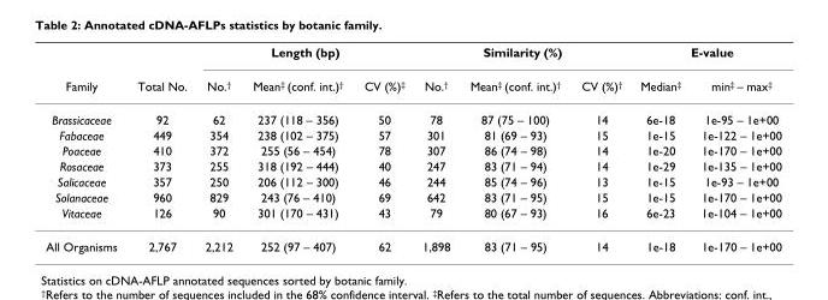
<table><thead><tr><td rowspan="2">Family</td><td rowspan="2">Total No.</td><td colspan="3">Length (bp)</td><td colspan="3">Similarity (%)</td><td colspan="2">E-value</td></tr><tr><td>No.<sup>†</sup></td><td>Mean<sup>‡</sup> (conf. int.)<sup>†</sup></td><td>CV (%)<sup>‡</sup></td><td>No.<sup>†</sup></td><td>Mean<sup>‡</sup> (conf. int.)<sup>†</sup></td><td>CV (%)<sup>†</sup></td><td>Median<sup>‡</sup></td><td>min<sup>‡</sup> – max<sup>‡</sup></td></tr></thead><tbody><tr><td>Brassicaceae</td><td>92</td><td>62</td><td>237 (118 – 356)</td><td>50</td><td>78</td><td>87 (75 – 100)</td><td>14</td><td>6e-18</td><td>1e-95 – 1e+00</td></tr><tr><td>Fabaceae</td><td>449</td><td>354</td><td>238 (102 – 375)</td><td>57</td><td>301</td><td>81 (69 – 93)</td><td>15</td><td>1e-15</td><td>1e-122 – 1e+00</td></tr><tr><td>Poaceae</td><td>410</td><td>372</td><td>255 (56 – 454)</td><td>78</td><td>307</td><td>86 (74 – 98)</td><td>14</td><td>1e-20</td><td>1e-170 – 1e+00</td></tr><tr><td>Rosaceae</td><td>373</td><td>255</td><td>318 (192 – 444)</td><td>40</td><td>247</td><td>83 (71 – 94)</td><td>14</td><td>1e-29</td><td>1e-135 – 1e+00</td></tr><tr><td>Salicaceae</td><td>357</td><td>250</td><td>206 (112 – 300)</td><td>46</td><td>244</td><td>85 (74 – 96)</td><td>13</td><td>1e-15</td><td>1e-93 – 1e+00</td></tr><tr><td>Solanaceae</td><td>960</td><td>829</td><td>243 (76 – 410)</td><td>69</td><td>642</td><td>83 (71 – 95)</td><td>15</td><td>1e-15</td><td>1e-170 – 1e+00</td></tr><tr><td>Vitaceae</td><td>126</td><td>90</td><td>301 (170 – 431)</td><td>43</td><td>79</td><td>80 (67 – 93)</td><td>16</td><td>6e-23</td><td>1e-104 – 1e+00</td></tr><tr><td>All Organisms</td><td>2,767</td><td>2,212</td><td>252 (97 – 407)</td><td>62</td><td>1,898</td><td>83 (71 – 95)</td><td>14</td><td>1e-18</td><td>1e-170 – 1e+00</td></tr></tbody></table>